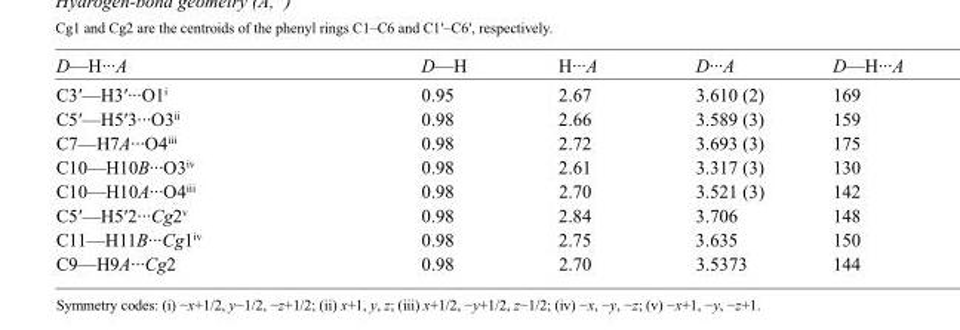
<table><tbody><tr><td>D—H···A</td><td>D—H</td><td>H···A</td><td>D···A</td><td>D—H···A</td></tr><tr><td>C3′—H3′···O1<sup>i</sup></td><td>0.95</td><td>2.67</td><td>3.610 (2)</td><td>169</td></tr><tr><td>C5′—H5′3···O3<sup>ii</sup></td><td>0.98</td><td>2.66</td><td>3.589 (3)</td><td>159</td></tr><tr><td>C7—H7A···O4<sup>iii</sup></td><td>0.98</td><td>2.72</td><td>3.693 (3)</td><td>175</td></tr><tr><td>C10—H10B···O3<sup>iv</sup></td><td>0.98</td><td>2.61</td><td>3.317 (3)</td><td>130</td></tr><tr><td>C10—H10A···O4<sup>iii</sup></td><td>0.98</td><td>2.70</td><td>3.521 (3)</td><td>142</td></tr><tr><td>C5′—H5′2···Cg2<sup>v</sup></td><td>0.98</td><td>2.84</td><td>3.706</td><td>148</td></tr><tr><td>C11—H11B···Cg1<sup>iv</sup></td><td>0.98</td><td>2.75</td><td>3.635</td><td>150</td></tr><tr><td>C9—H9A···Cg2</td><td>0.98</td><td>2.70</td><td>3.5373</td><td>144</td></tr></tbody></table>